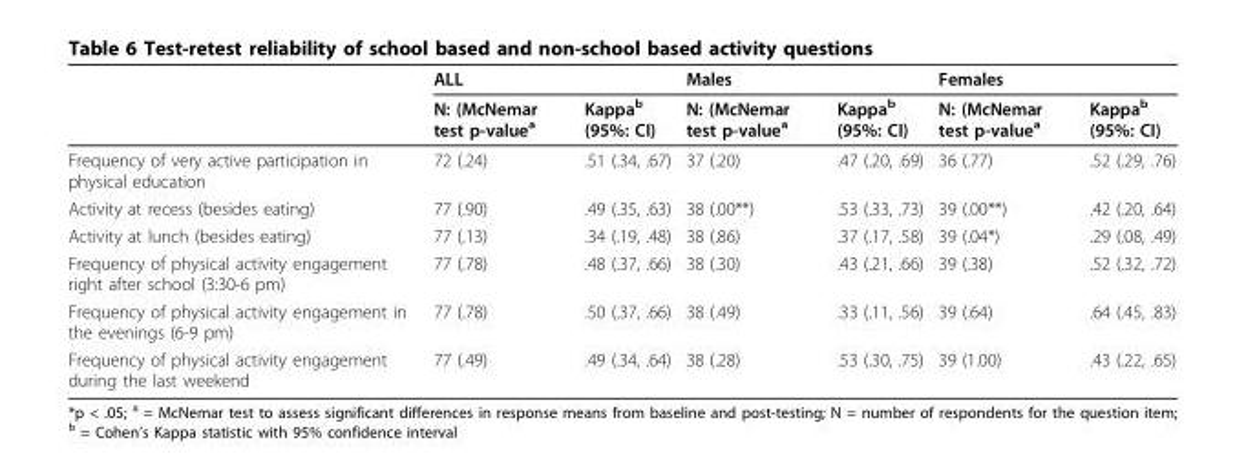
<table><thead><tr><td rowspan="2"></td><td rowspan="2">ALL N: (McNemar test p-value<sup>a</sup></td><td rowspan="2">Kappa<sup>b</sup> (95%: CI)</td><td rowspan="2">Males N: (McNemar test p-value<sup>a</sup></td><td rowspan="2">Kappa<sup>b</sup> (95%: CI)</td><td rowspan="2">Females N: (McNemar test p-value<sup>a</sup></td><td rowspan="2">Kappa<sup>b</sup> (95%: CI)</td></tr><tr></tr></thead><tbody><tr><td>Frequency of very active participation in physical education</td><td>72 (.24)</td><td>.51 (.34, .67)</td><td>37 (.20)</td><td>.47 (.20, .69)</td><td>36 (.77)</td><td>.52 (.29, .76)</td></tr><tr><td>Activity at recess (besides eating)</td><td>77 (.90)</td><td>.49 (.35, .63)</td><td>38 (.00**)</td><td>.53 (.33, .73)</td><td>39 (.00**)</td><td>.42 (.20, .64)</td></tr><tr><td>Activity at lunch (besides eating)</td><td>77 (.13)</td><td>.34 (.19, .48)</td><td>38 (.86)</td><td>.37 (.17, .58)</td><td>39 (.04*)</td><td>.29 (.08, .49)</td></tr><tr><td>Frequency of physical activity engagement right after school (3:30-6 pm)</td><td>77 (.78)</td><td>.48 (.37, .66)</td><td>38 (.30)</td><td>.43 (.21, .66)</td><td>39 (.38)</td><td>.52 (.32, .72)</td></tr><tr><td>Frequency of physical activity engagement in the evenings (6-9 pm)</td><td>77 (.78)</td><td>.50 (.37, .66)</td><td>38 (.49)</td><td>.33 (.11, .56)</td><td>39 (.64)</td><td>.64 (.45, .83)</td></tr><tr><td>Frequency of physical activity engagement during the last weekend</td><td>77 (.49)</td><td>.49 (.34, .64)</td><td>38 (.28)</td><td>.53 (.30, .75)</td><td>39 (1.00)</td><td>.43 (.22, .65)</td></tr></tbody></table>